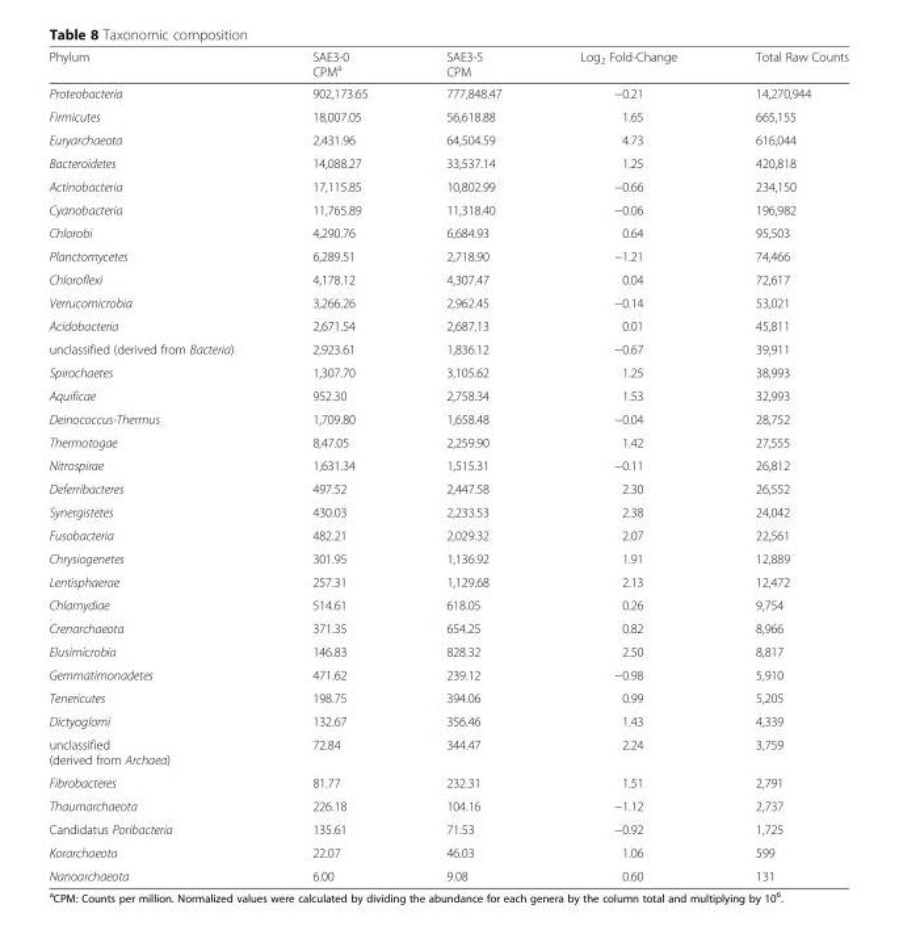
<table><thead><tr><td>Phylum</td><td>SAE3-0 CPM<sup>a</sup></td><td>SAE3-5 CPM</td><td>Log<sub>2</sub> Fold-Change</td><td>Total Raw Counts</td></tr></thead><tbody><tr><td>Proteobacteria</td><td>902,173.65</td><td>777,848.47</td><td>−0.21</td><td>14,270,944</td></tr><tr><td>Firmicutes</td><td>18,007.05</td><td>56,618.88</td><td>1.65</td><td>665,155</td></tr><tr><td>Euryarchaeota</td><td>2,431.96</td><td>64,504.59</td><td>4.73</td><td>616,044</td></tr><tr><td>Bacteroidetes</td><td>14,088.27</td><td>33,537.14</td><td>1.25</td><td>420,818</td></tr><tr><td>Actinobacteria</td><td>17,115.85</td><td>10,802.99</td><td>−0.66</td><td>234,150</td></tr><tr><td>Cyanobacteria</td><td>11,765.89</td><td>11,318.40</td><td>−0.06</td><td>196,982</td></tr><tr><td>Chlorobi</td><td>4,290.76</td><td>6,684.93</td><td>0.64</td><td>95,503</td></tr><tr><td>Planctomycetes</td><td>6,289.51</td><td>2,718.90</td><td>−1.21</td><td>74,466</td></tr><tr><td>Chloroflexi</td><td>4,178.12</td><td>4,307.47</td><td>0.04</td><td>72,617</td></tr><tr><td>Verrucomicrobia</td><td>3,266.26</td><td>2,962.45</td><td>−0.14</td><td>53,021</td></tr><tr><td>Acidobacteria</td><td>2,671.54</td><td>2,687.13</td><td>0.01</td><td>45,811</td></tr><tr><td>unclassified (derived from Bacteria)</td><td>2,923.61</td><td>1,836.12</td><td>−0.67</td><td>39,911</td></tr><tr><td>Spirochaetes</td><td>1,307.70</td><td>3,105.62</td><td>1.25</td><td>38,993</td></tr><tr><td>Aquificae</td><td>952.30</td><td>2,758.34</td><td>1.53</td><td>32,993</td></tr><tr><td>Deinococcus-Thermus</td><td>1,709.80</td><td>1,658.48</td><td>−0.04</td><td>28,752</td></tr><tr><td>Thermotogae</td><td>8,47.05</td><td>2,259.90</td><td>1.42</td><td>27,555</td></tr><tr><td>Nitrospirae</td><td>1,631.34</td><td>1,515.31</td><td>−0.11</td><td>26,812</td></tr><tr><td>Deferribacteres</td><td>497.52</td><td>2,447.58</td><td>2.30</td><td>26,552</td></tr><tr><td>Synergistetes</td><td>430.03</td><td>2,233.53</td><td>2.38</td><td>24,042</td></tr><tr><td>Fusobacteria</td><td>482.21</td><td>2,029.32</td><td>2.07</td><td>22,561</td></tr><tr><td>Chrysiogenetes</td><td>301.95</td><td>1,136.92</td><td>1.91</td><td>12,889</td></tr><tr><td>Lentisphaerae</td><td>257.31</td><td>1,129.68</td><td>2.13</td><td>12,472</td></tr><tr><td>Chlamydiae</td><td>514.61</td><td>618.05</td><td>0.26</td><td>9,754</td></tr><tr><td>Crenarchaeota</td><td>371.35</td><td>654.25</td><td>0.82</td><td>8,966</td></tr><tr><td>Elusimicrobia</td><td>146.83</td><td>828.32</td><td>2.50</td><td>8,817</td></tr><tr><td>Gemmatimonadetes</td><td>471.62</td><td>239.12</td><td>−0.98</td><td>5,910</td></tr><tr><td>Tenericutes</td><td>198.75</td><td>394.06</td><td>0.99</td><td>5,205</td></tr><tr><td>Dictyoglomi</td><td>132.67</td><td>356.46</td><td>1.43</td><td>4,339</td></tr><tr><td>unclassified (derived from Archaea)</td><td>72.84</td><td>344.47</td><td>2.24</td><td>3,759</td></tr><tr><td>Fibrobacteres</td><td>81.77</td><td>232.31</td><td>1.51</td><td>2,791</td></tr><tr><td>Thaumarchaeota</td><td>226.18</td><td>104.16</td><td>−1.12</td><td>2,737</td></tr><tr><td>Candidatus Poribacteria</td><td>135.61</td><td>71.53</td><td>−0.92</td><td>1,725</td></tr><tr><td>Korarchaeota</td><td>22.07</td><td>46.03</td><td>1.06</td><td>599</td></tr><tr><td>Nanoarchaeota</td><td>6.00</td><td>9.08</td><td>0.60</td><td>131</td></tr></tbody></table>